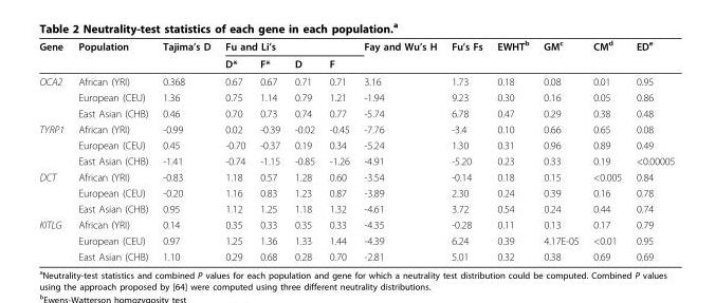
<table><thead><tr><td rowspan="2">Gene</td><td rowspan="2">Population</td><td rowspan="2">Tajima’s D</td><td colspan="4">Fu and Li’s</td><td rowspan="2">Fay and Wu’s H</td><td rowspan="2">Fu’s Fs</td><td rowspan="2">EWHT<sup>b</sup></td><td rowspan="2">GM<sup>c</sup></td><td rowspan="2">CM<sup>d</sup></td><td rowspan="2">ED<sup>e</sup></td></tr><tr><td>D*</td><td>F*</td><td>D</td><td>F</td></tr></thead><tbody><tr><td rowspan="3">OCA2</td><td>African (YRI)</td><td>0.368</td><td>0.67</td><td>0.67</td><td>0.71</td><td>0.71</td><td>3.16</td><td>1.73</td><td>0.18</td><td>0.08</td><td>0.01</td><td>0.95</td></tr><tr><td>European (CEU)</td><td>1.36</td><td>0.75</td><td>1.14</td><td>0.79</td><td>1.21</td><td>-1.94</td><td>9.23</td><td>0.30</td><td>0.16</td><td>0.05</td><td>0.86</td></tr><tr><td>East Asian (CHB)</td><td>0.46</td><td>0.70</td><td>0.73</td><td>0.74</td><td>0.77</td><td>-5.74</td><td>6.78</td><td>0.47</td><td>0.29</td><td>0.38</td><td>0.48</td></tr><tr><td rowspan="3">TYRP1</td><td>African (YRI)</td><td>-0.99</td><td>0.02</td><td>-0.39</td><td>-0.02</td><td>-0.45</td><td>-7.76</td><td>-3.4</td><td>0.10</td><td>0.66</td><td>0.65</td><td>0.08</td></tr><tr><td>European (CEU)</td><td>0.45</td><td>-0.70</td><td>-0.37</td><td>0.19</td><td>0.34</td><td>-5.24</td><td>1.30</td><td>0.31</td><td>0.96</td><td>0.89</td><td>0.49</td></tr><tr><td>East Asian (CHB)</td><td>-1.41</td><td>-0.74</td><td>-1.15</td><td>-0.85</td><td>-1.26</td><td>-4.91</td><td>-5.20</td><td>0.23</td><td>0.33</td><td>0.19</td><td>&lt;0.00005</td></tr><tr><td rowspan="3">DCT</td><td>African (YRI)</td><td>-0.83</td><td>1.18</td><td>0.57</td><td>1.28</td><td>0.60</td><td>-3.54</td><td>-0.14</td><td>0.18</td><td>0.15</td><td>&lt;0.005</td><td>0.84</td></tr><tr><td>European (CEU)</td><td>-0.20</td><td>1.16</td><td>0.83</td><td>1.23</td><td>0.87</td><td>-3.89</td><td>2.30</td><td>0.24</td><td>0.39</td><td>0.16</td><td>0.78</td></tr><tr><td>East Asian (CHB)</td><td>0.95</td><td>1.12</td><td>1.25</td><td>1.18</td><td>1.32</td><td>-4.61</td><td>3.72</td><td>0.54</td><td>0.24</td><td>0.44</td><td>0.74</td></tr><tr><td rowspan="3">KITLG</td><td>African (YRI)</td><td>0.14</td><td>0.35</td><td>0.33</td><td>0.35</td><td>0.33</td><td>-4.35</td><td>-0.28</td><td>0.11</td><td>0.13</td><td>0.17</td><td>0.79</td></tr><tr><td>European (CEU)</td><td>0.97</td><td>1.25</td><td>1.36</td><td>1.33</td><td>1.44</td><td>-4.39</td><td>6.24</td><td>0.39</td><td>4.17E-05</td><td>&lt;0.01</td><td>0.95</td></tr><tr><td>East Asian (CHB)</td><td>1.10</td><td>0.29</td><td>0.68</td><td>0.28</td><td>0.70</td><td>-2.81</td><td>5.01</td><td>0.32</td><td>0.38</td><td>0.69</td><td>0.69</td></tr></tbody></table>